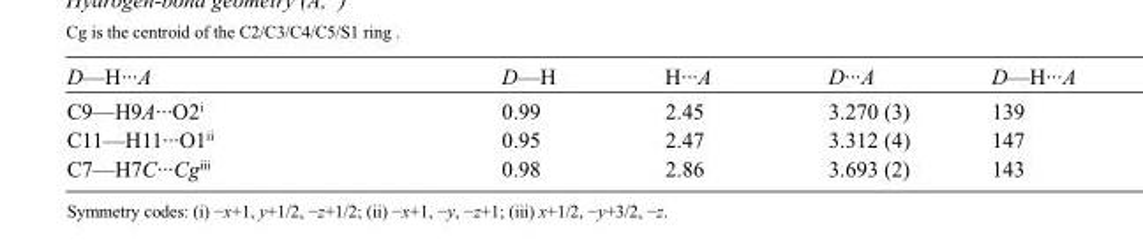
<table><tbody><tr><td>D—H···A</td><td>D—H</td><td>H···A</td><td>D···A</td><td>D—H···A</td></tr><tr><td>C9—H9A···O2<sup>i</sup></td><td>0.99</td><td>2.45</td><td>3.270 (3)</td><td>139</td></tr><tr><td>C11—H11···O1<sup>ii</sup></td><td>0.95</td><td>2.47</td><td>3.312 (4)</td><td>147</td></tr><tr><td>C7—H7C···Cg<sup>iii</sup></td><td>0.98</td><td>2.86</td><td>3.693 (2)</td><td>143</td></tr></tbody></table>